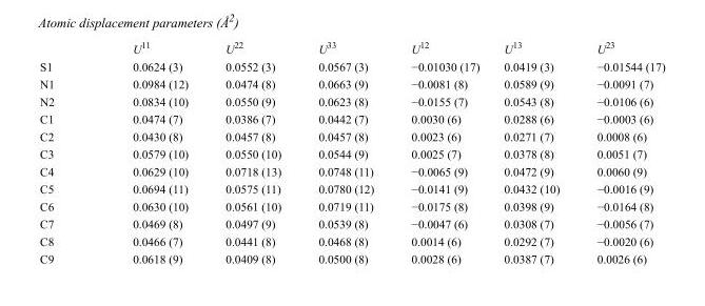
<table><thead><tr><td></td><td>U<sup>11</sup></td><td>U<sup>22</sup></td><td>U<sup>33</sup></td><td>U<sup>12</sup></td><td>U<sup>13</sup></td><td>U<sup>23</sup></td></tr></thead><tbody><tr><td>S1</td><td>0.0624 (3)</td><td>0.0552 (3)</td><td>0.0567 (3)</td><td>−0.01030 (17)</td><td>0.0419 (3)</td><td>−0.01544 (17)</td></tr><tr><td>N1</td><td>0.0984 (12)</td><td>0.0474 (8)</td><td>0.0663 (9)</td><td>−0.0081 (8)</td><td>0.0589 (9)</td><td>−0.0091 (7)</td></tr><tr><td>N2</td><td>0.0834 (10)</td><td>0.0550 (9)</td><td>0.0623 (8)</td><td>−0.0155 (7)</td><td>0.0543 (8)</td><td>−0.0106 (6)</td></tr><tr><td>C1</td><td>0.0474 (7)</td><td>0.0386 (7)</td><td>0.0442 (7)</td><td>0.0030 (6)</td><td>0.0288 (6)</td><td>−0.0003 (6)</td></tr><tr><td>C2</td><td>0.0430 (8)</td><td>0.0457 (8)</td><td>0.0457 (8)</td><td>0.0023 (6)</td><td>0.0271 (7)</td><td>0.0008 (6)</td></tr><tr><td>C3</td><td>0.0579 (10)</td><td>0.0550 (10)</td><td>0.0544 (9)</td><td>0.0025 (7)</td><td>0.0378 (8)</td><td>0.0051 (7)</td></tr><tr><td>C4</td><td>0.0629 (10)</td><td>0.0718 (13)</td><td>0.0748 (11)</td><td>−0.0065 (9)</td><td>0.0472 (9)</td><td>0.0060 (9)</td></tr><tr><td>C5</td><td>0.0694 (11)</td><td>0.0575 (11)</td><td>0.0780 (12)</td><td>−0.0141 (9)</td><td>0.0432 (10)</td><td>−0.0016 (9)</td></tr><tr><td>C6</td><td>0.0630 (10)</td><td>0.0561 (10)</td><td>0.0719 (11)</td><td>−0.0175 (8)</td><td>0.0398 (9)</td><td>−0.0164 (8)</td></tr><tr><td>C7</td><td>0.0469 (8)</td><td>0.0497 (9)</td><td>0.0539 (8)</td><td>−0.0047 (6)</td><td>0.0308 (7)</td><td>−0.0056 (7)</td></tr><tr><td>C8</td><td>0.0466 (7)</td><td>0.0441 (8)</td><td>0.0468 (8)</td><td>0.0014 (6)</td><td>0.0292 (7)</td><td>−0.0020 (6)</td></tr><tr><td>C9</td><td>0.0618 (9)</td><td>0.0409 (8)</td><td>0.0500 (8)</td><td>0.0028 (6)</td><td>0.0387 (7)</td><td>0.0026 (6)</td></tr></tbody></table>